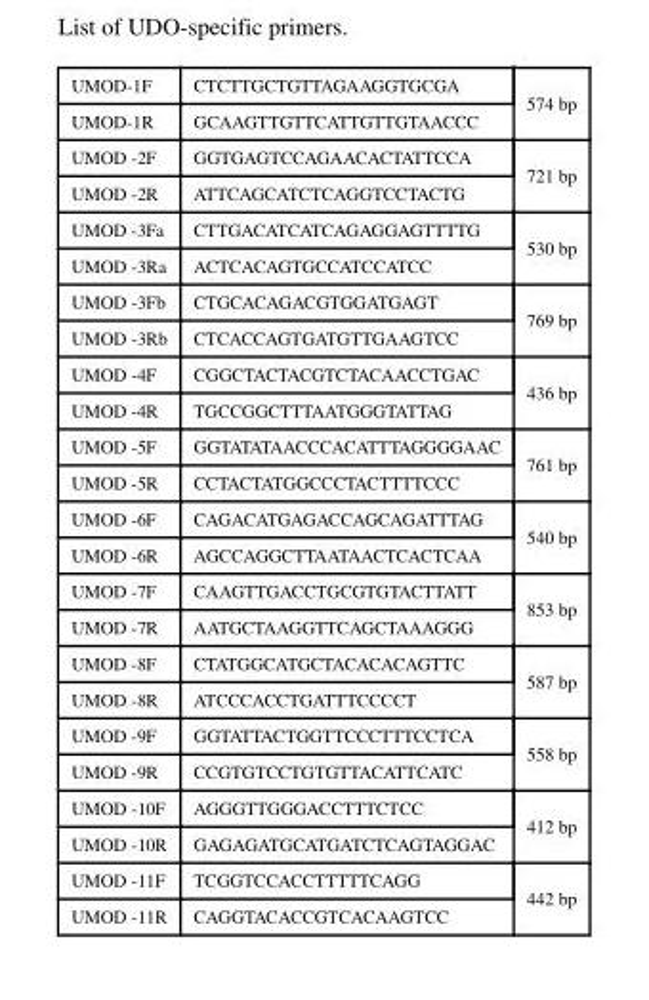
<table><tbody><tr><td>UMOD-1F</td><td>CTCTTGCTGTTAGAAGGTGCGA</td><td rowspan="2">574 bp</td></tr><tr><td>UMOD-1R</td><td>GCAAGTTGTTCATTGTTGTAACCC</td></tr><tr><td>UMOD -2F</td><td>GGTGAGTCCAGAACACTATTCCA</td><td rowspan="2">721 bp</td></tr><tr><td>UMOD -2R</td><td>ATTCAGCATCTCAGGTCCTACTG</td></tr><tr><td>UMOD -3Fa</td><td>CTTGACATCATCAGAGGAGTTTTG</td><td rowspan="2">530 bp</td></tr><tr><td>UMOD -3Ra</td><td>ACTCACAGTGCCATCCATCC</td></tr><tr><td>UMOD -3Fb</td><td>CTGCACAGACGTGGATGAGT</td><td rowspan="2">769 bp</td></tr><tr><td>UMOD -3Rb</td><td>CTCACCAGTGATGTTGAAGTCC</td></tr><tr><td>UMOD -4F</td><td>CGGCTACTACGTCTACAACCTGAC</td><td rowspan="2">436 bp</td></tr><tr><td>UMOD -4R</td><td>TGCCGGCTTTAATGGGTATTAG</td></tr><tr><td>UMOD -5F</td><td>GGTATATAACCCACATTTAGGGGAAC</td><td rowspan="2">761 bp</td></tr><tr><td>UMOD -5R</td><td>CCTACTATGGCCCTACTTTTCCC</td></tr><tr><td>UMOD -6F</td><td>CAGACATGAGACCAGCAGATTTAG</td><td rowspan="2">540 bp</td></tr><tr><td>UMOD -6R</td><td>AGCCAGGCTTAATAACTCACTCAA</td></tr><tr><td>UMOD -7F</td><td>CAAGTTGACCTGCGTGTACTTATT</td><td rowspan="2">853 bp</td></tr><tr><td>UMOD -7R</td><td>AATGCTAAGGTTCAGCTAAAGGG</td></tr><tr><td>UMOD -8F</td><td>CTATGGCATGCTACACACAGTTC</td><td rowspan="2">587 bp</td></tr><tr><td>UMOD -8R</td><td>ATCCCACCTGATTTCCCCT</td></tr><tr><td>UMOD -9F</td><td>GGTATTACTGGTTCCCTTTCCTCA</td><td rowspan="2">558 bp</td></tr><tr><td>UMOD -9R</td><td>CCGTGTCCTGTGTTACATTCATC</td></tr><tr><td>UMOD -10F</td><td>AGGGTTGGGACCTTTCTCC</td><td rowspan="2">412 bp</td></tr><tr><td>UMOD -10R</td><td>GAGAGATGCATGATCTCAGTAGGAC</td></tr><tr><td>UMOD -11F</td><td>TCGGTCCACCTTTTTCAGG</td><td rowspan="2">442 bp</td></tr><tr><td>UMOD -11R</td><td>CAGGTACACCGTCACAAGTCC</td></tr></tbody></table>